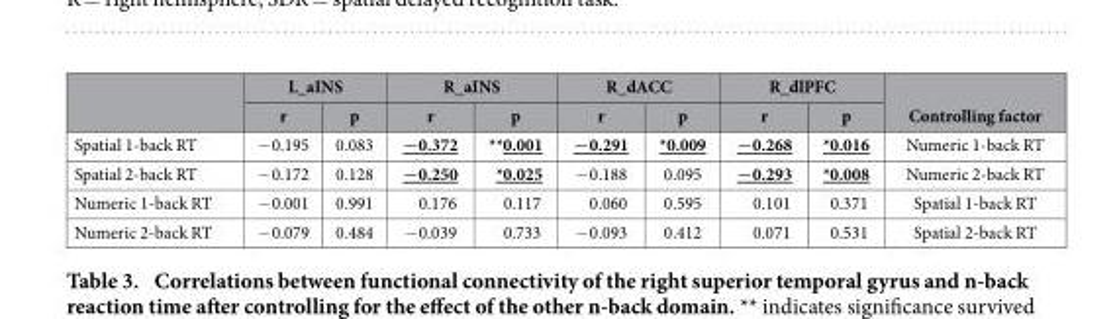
<table><thead><tr><td rowspan="2"></td><td colspan="2">L_aINS</td><td colspan="2">R_aINS</td><td colspan="2">R_dACC</td><td colspan="2">R_dlPFC</td><td rowspan="2">Controlling factor</td></tr><tr><td>r</td><td>p</td><td>r</td><td>p</td><td>r</td><td>p</td><td>r</td><td>p</td></tr></thead><tbody><tr><td>Spatial 1-back RT</td><td>− 0.195</td><td>0.083</td><td>−0.372</td><td>**0.001</td><td>−0.291</td><td>*0.009</td><td>−0.268</td><td>*0.016</td><td>Numeric 1-back RT</td></tr><tr><td>Spatial 2-back RT</td><td>− 0.172</td><td>0.128</td><td>−0.250</td><td>*0.025</td><td>− 0.188</td><td>0.095</td><td>−0.293</td><td>*0.008</td><td>Numeric 2-back RT</td></tr><tr><td>Numeric 1-back RT</td><td>− 0.001</td><td>0.991</td><td>0.176</td><td>0.117</td><td>0.060</td><td>0.595</td><td>0.101</td><td>0.371</td><td>Spatial 1-back RT</td></tr><tr><td>Numeric 2-back RT</td><td>− 0.079</td><td>0.484</td><td>− 0.039</td><td>0.733</td><td>− 0.093</td><td>0.412</td><td>0.071</td><td>0.531</td><td>Spatial 2-back RT</td></tr></tbody></table>